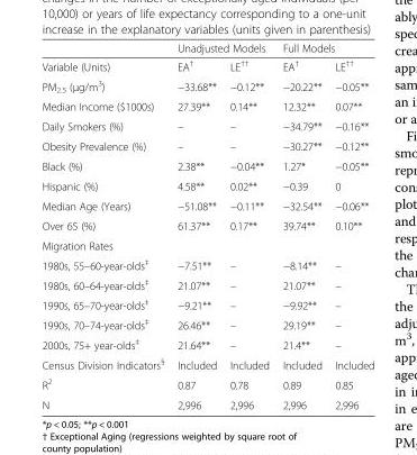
<table><thead><tr><td rowspan="2">Variable (Units)</td><td colspan="2">Unadjusted Models</td><td colspan="2">Full Models</td></tr><tr><td>EA<sup>†</sup></td><td>LE<sup>††</sup></td><td>EA<sup>†</sup></td><td>LE<sup>††</sup></td></tr></thead><tbody><tr><td>PM<sub>2.5</sub> (μg/m<sup>3</sup>)</td><td>−33.68**</td><td>−0.12**</td><td>−20.22**</td><td>−0.05**</td></tr><tr><td>Median Income ($1000s)</td><td>27.39**</td><td>0.14**</td><td>12.32**</td><td>0.07**</td></tr><tr><td>Daily Smokers (%)</td><td>–</td><td>–</td><td>−34.79**</td><td>−0.16**</td></tr><tr><td>Obesity Prevalence (%)</td><td>–</td><td>–</td><td>−30.27**</td><td>−0.12**</td></tr><tr><td>Black (%)</td><td>2.38**</td><td>−0.04**</td><td>1.27*</td><td>−0.05**</td></tr><tr><td>Hispanic (%)</td><td>4.58**</td><td>0.02**</td><td>−0.39</td><td>0</td></tr><tr><td>Median Age (Years)</td><td>−51.08**</td><td>−0.11**</td><td>−32.54**</td><td>−0.06**</td></tr><tr><td>Over 65 (%)</td><td>61.37**</td><td>0.17**</td><td>39.74**</td><td>0.10**</td></tr><tr><td colspan="5">Migration Rates</td></tr><tr><td>1980s, 55–60-year-olds<sup>‡</sup></td><td>−7.51**</td><td>–</td><td>−8.14**</td><td>–</td></tr><tr><td>1980s, 60–64-year-olds<sup>‡</sup></td><td>21.07**</td><td>–</td><td>21.07**</td><td>–</td></tr><tr><td>1990s, 65–70-year-olds<sup>‡</sup></td><td>−9.21**</td><td>–</td><td>−9.92**</td><td>–</td></tr><tr><td>1990s, 70–74-year-olds<sup>‡</sup></td><td>26.46**</td><td>–</td><td>29.19**</td><td>–</td></tr><tr><td>2000s, 75+ year-olds<sup>‡</sup></td><td>21.64**</td><td>–</td><td>21.4**</td><td>–</td></tr><tr><td>Census Division Indicators<sup>§</sup></td><td>Included</td><td>Included</td><td>Included</td><td>Included</td></tr><tr><td>R<sup>2</sup></td><td>0.87</td><td>0.78</td><td>0.89</td><td>0.85</td></tr><tr><td>N</td><td>2,996</td><td>2,996</td><td>2,996</td><td>2,996</td></tr></tbody></table>